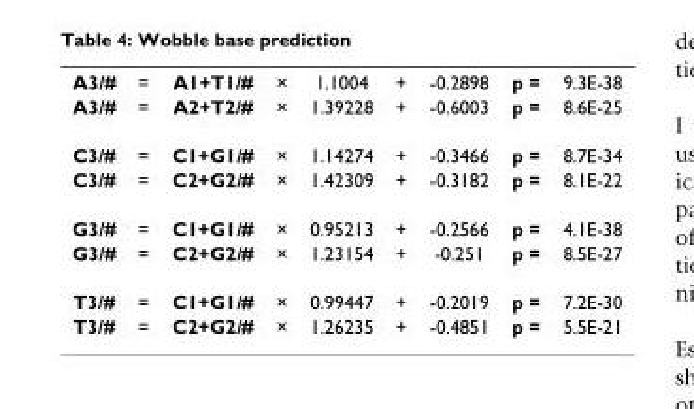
<table><tbody><tr><td>A3/#</td><td>=</td><td>A1+T1/#</td><td>×</td><td>1.1004</td><td>+</td><td>-0.2898</td><td>p =</td><td>9.3E-38</td></tr><tr><td>A3/#</td><td>=</td><td>A2+T2/#</td><td>×</td><td>1.39228</td><td>+</td><td>-0.6003</td><td>p =</td><td>8.6E-25</td></tr><tr><td>C3/#</td><td>=</td><td>C1+G1/#</td><td>×</td><td>1.14274</td><td>+</td><td>-0.3466</td><td>p =</td><td>8.7E-34</td></tr><tr><td>C3/#</td><td>=</td><td>C2+G2/#</td><td>×</td><td>1.42309</td><td>+</td><td>-0.3182</td><td>p =</td><td>8.1E-22</td></tr><tr><td>G3/#</td><td>=</td><td>C1+G1/#</td><td>×</td><td>0.95213</td><td>+</td><td>-0.2566</td><td>p =</td><td>4.1E-38</td></tr><tr><td>G3/#</td><td>=</td><td>C2+G2/#</td><td>×</td><td>1.23154</td><td>+</td><td>-0.251</td><td>p =</td><td>8.5E-27</td></tr><tr><td>T3/#</td><td>=</td><td>C1+G1/#</td><td>×</td><td>0.99447</td><td>+</td><td>-0.2019</td><td>p =</td><td>7.2E-30</td></tr><tr><td>T3/#</td><td>=</td><td>C2+G2/#</td><td>×</td><td>1.26235</td><td>+</td><td>-0.4851</td><td>p =</td><td>5.5E-21</td></tr></tbody></table>